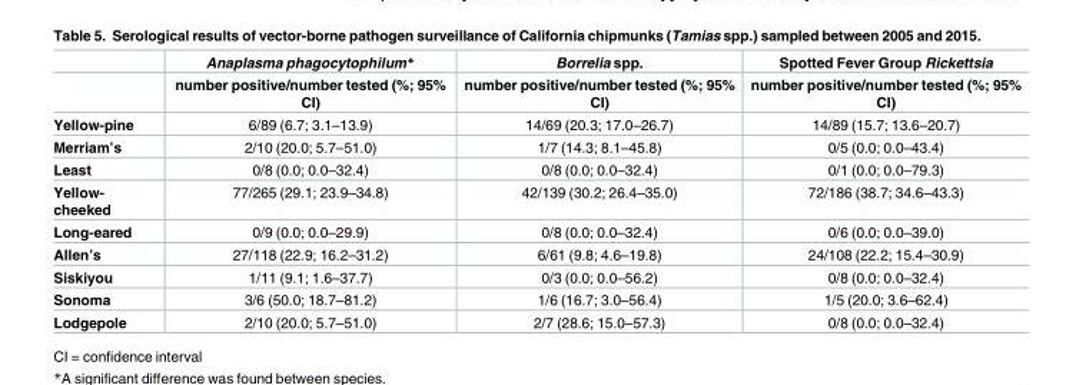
<table><thead><tr><td rowspan="2"></td><td rowspan="2">Anaplasma phagocytophilum* number positive/number tested (%; 95% CI)</td><td rowspan="2">Borrelia spp. number positive/number tested (%; 95% CI)</td><td rowspan="2">Spotted Fever Group Rickettsia number positive/number tested (%; 95% CI)</td></tr><tr></tr></thead><tbody><tr><td>Yellow-pine</td><td>6/89 (6.7; 3.1–13.9)</td><td>14/69 (20.3; 17.0–26.7)</td><td>14/89 (15.7; 13.6–20.7)</td></tr><tr><td>Merriam’s</td><td>2/10 (20.0; 5.7–51.0)</td><td>1/7 (14.3; 8.1–45.8)</td><td>0/5 (0.0; 0.0–43.4)</td></tr><tr><td>Least</td><td>0/8 (0.0; 0.0–32.4)</td><td>0/8 (0.0; 0.0–32.4)</td><td>0/1 (0.0; 0.0–79.3)</td></tr><tr><td>Yellow- cheeked</td><td>77/265 (29.1; 23.9–34.8)</td><td>42/139 (30.2; 26.4–35.0)</td><td>72/186 (38.7; 34.6–43.3)</td></tr><tr><td>Long-eared</td><td>0/9 (0.0; 0.0–29.9)</td><td>0/8 (0.0; 0.0–32.4)</td><td>0/6 (0.0; 0.0–39.0)</td></tr><tr><td>Allen’s</td><td>27/118 (22.9; 16.2–31.2)</td><td>6/61 (9.8; 4.6–19.8)</td><td>24/108 (22.2; 15.4–30.9)</td></tr><tr><td>Siskiyou</td><td>1/11 (9.1; 1.6–37.7)</td><td>0/3 (0.0; 0.0–56.2)</td><td>0/8 (0.0; 0.0–32.4)</td></tr><tr><td>Sonoma</td><td>3/6 (50.0; 18.7–81.2)</td><td>1/6 (16.7; 3.0–56.4)</td><td>1/5 (20.0; 3.6–62.4)</td></tr><tr><td>Lodgepole</td><td>2/10 (20.0; 5.7–51.0)</td><td>2/7 (28.6; 15.0–57.3)</td><td>0/8 (0.0; 0.0–32.4)</td></tr></tbody></table>